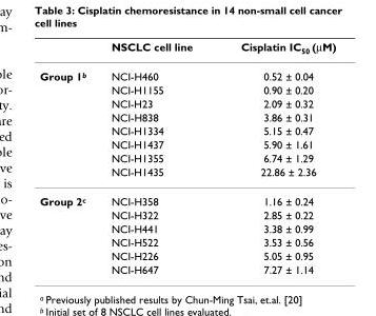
<table><thead><tr><td></td><td>NSCLC cell line</td><td>Cisplatin IC<sub>50</sub> (µM)</td></tr></thead><tbody><tr><td rowspan="8">Group 1<sup>b</sup></td><td>NCI-H460</td><td>0.52 ± 0.04</td></tr><tr><td>NCI-H1155</td><td>0.90 ± 0.20</td></tr><tr><td>NCI-H23</td><td>2.09 ± 0.32</td></tr><tr><td>NCI-H838</td><td>3.86 ± 0.31</td></tr><tr><td>NCI-H1334</td><td>5.15 ± 0.47</td></tr><tr><td>NCI-H1437</td><td>5.90 ± 1.61</td></tr><tr><td>NCI-H1355</td><td>6.74 ± 1.29</td></tr><tr><td>NCI-H1435</td><td>22.86 ± 2.36</td></tr><tr><td rowspan="6">Group 2<sup>c</sup></td><td>NCI-H358</td><td>1.16 ± 0.24</td></tr><tr><td>NCI-H322</td><td>2.85 ± 0.22</td></tr><tr><td>NCI-H441</td><td>3.38 ± 0.99</td></tr><tr><td>NCI-H522</td><td>3.53 ± 0.56</td></tr><tr><td>NCI-H226</td><td>5.05 ± 0.95</td></tr><tr><td>NCI-H647</td><td>7.27 ± 1.14</td></tr></tbody></table>